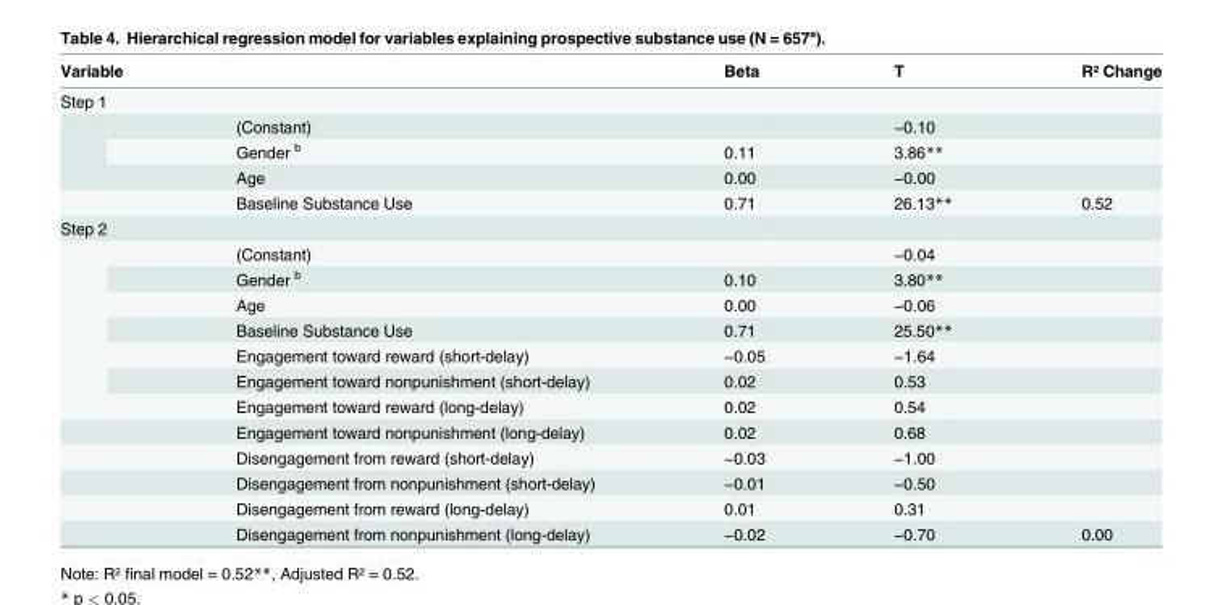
<table><thead><tr><td colspan="2">Variable</td><td rowspan="2">Beta</td><td rowspan="2">T</td><td rowspan="2">R² Change</td></tr><tr><td>Step 1</td><td></td></tr></thead><tbody><tr><td rowspan="2"></td><td>(Constant)</td><td></td><td>−0.10</td><td></td></tr><tr><td>Gender <sup>b</sup></td><td>0.11</td><td>3.86**</td><td></td></tr><tr><td></td><td>Age</td><td>0.00</td><td>−0.00</td><td></td></tr><tr><td></td><td>Baseline Substance Use</td><td>0.71</td><td>26.13**</td><td>0.52</td></tr><tr><td colspan="5">Step 2</td></tr><tr><td rowspan="7"></td><td>(Constant)</td><td></td><td>−0.04</td><td></td></tr><tr><td>Gender <sup>b</sup></td><td>0.10</td><td>3.80**</td><td></td></tr><tr><td>Age</td><td>0.00</td><td>−0.06</td><td></td></tr><tr><td>Baseline Substance Use</td><td>0.71</td><td>25.50**</td><td></td></tr><tr><td>Engagement toward reward (short-delay)</td><td>−0.05</td><td>−1.64</td><td></td></tr><tr><td>Engagement toward nonpunishment (short-delay)</td><td>0.02</td><td>0.53</td><td></td></tr><tr><td>Engagement toward reward (long-delay)</td><td>0.02</td><td>0.54</td><td></td></tr><tr><td></td><td>Engagement toward nonpunishment (long-delay)</td><td>0.02</td><td>0.68</td><td></td></tr><tr><td></td><td>Disengagement from reward (short-delay)</td><td>−0.03</td><td>−1.00</td><td></td></tr><tr><td></td><td>Disengagement from nonpunishment (short-delay)</td><td>−0.01</td><td>−0.50</td><td></td></tr><tr><td></td><td>Disengagement from reward (long-delay)</td><td>0.01</td><td>0.31</td><td></td></tr><tr><td></td><td>Disengagement from nonpunishment (long-delay)</td><td>−0.02</td><td>−0.70</td><td>0.00</td></tr></tbody></table>